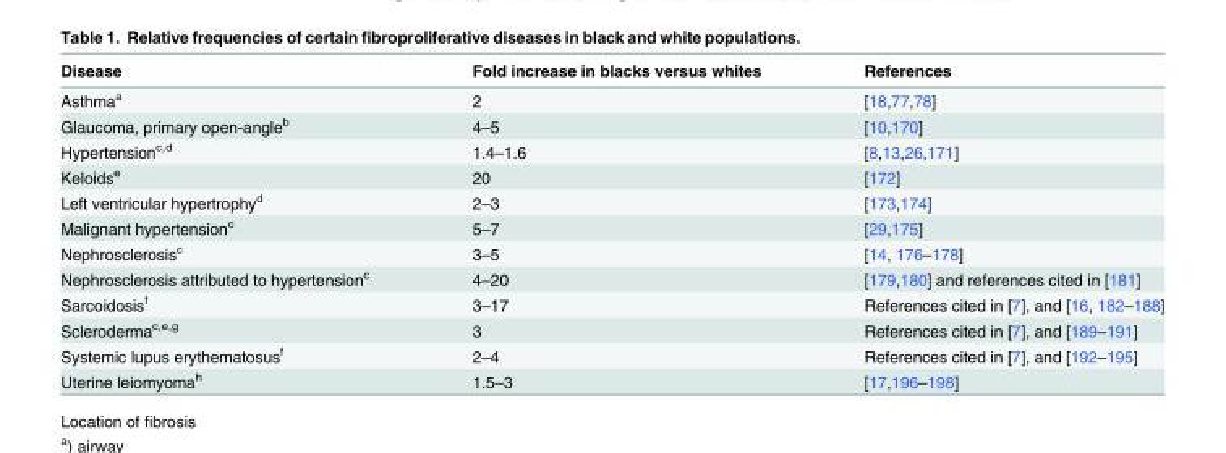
<table><thead><tr><td>Disease</td><td>Fold increase in blacks versus whites</td><td>References</td></tr></thead><tbody><tr><td>Asthma<sup>a</sup></td><td>2</td><td>[18,77,78]</td></tr><tr><td>Glaucoma, primary open-angle<sup>b</sup></td><td>4–5</td><td>[10,170]</td></tr><tr><td>Hypertension<sup>c,d</sup></td><td>1.4–1.6</td><td>[8,13,26,171]</td></tr><tr><td>Keloids<sup>e</sup></td><td>20</td><td>[172]</td></tr><tr><td>Left ventricular hypertrophy<sup>d</sup></td><td>2–3</td><td>[173,174]</td></tr><tr><td>Malignant hypertension<sup>c</sup></td><td>5–7</td><td>[29,175]</td></tr><tr><td>Nephrosclerosis<sup>c</sup></td><td>3–5</td><td>[14, 176–178]</td></tr><tr><td>Nephrosclerosis attributed to hypertension<sup>c</sup></td><td>4–20</td><td>[179,180] and references cited in [181]</td></tr><tr><td>Sarcoidosis<sup>f</sup></td><td>3–17</td><td>References cited in [7], and [16, 182–188]</td></tr><tr><td>Scleroderma<sup>c,e,g</sup></td><td>3</td><td>References cited in [7], and [189–191]</td></tr><tr><td>Systemic lupus erythematosus<sup>f</sup></td><td>2–4</td><td>References cited in [7], and [192–195]</td></tr><tr><td>Uterine leiomyoma<sup>h</sup></td><td>1.5–3</td><td>[17,196–198]</td></tr></tbody></table>